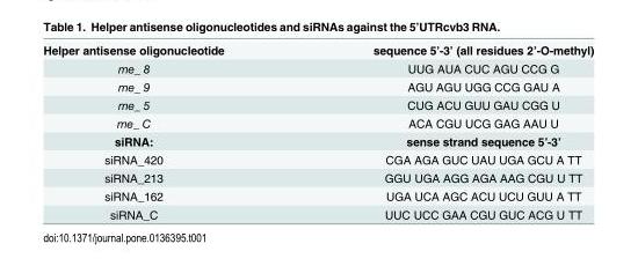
<table><tbody><tr><td>Helper antisense oligonucleotide</td><td>sequence 5’-3’ (all residues 2’-O-methyl)</td></tr><tr><td>me_ 8</td><td>UUG AUA CUC AGU CCG G</td></tr><tr><td>me_ 9</td><td>AGU AGU UGG CCG GAU A</td></tr><tr><td>me_ 5</td><td>CUG ACU GUU GAU CGG U</td></tr><tr><td>me_ C</td><td>ACA CGU UCG GAG AAU U</td></tr><tr><td>siRNA:</td><td>sense strand sequence 5’-3’</td></tr><tr><td>siRNA_420</td><td>CGA AGA GUC UAU UGA GCU A TT</td></tr><tr><td>siRNA_213</td><td>GGU UGA AGG AGA AAG CGU U TT</td></tr><tr><td>siRNA_162</td><td>UGA UCA AGC ACU UCU GUU A TT</td></tr><tr><td>siRNA_C</td><td>UUC UCC GAA CGU GUC ACG U TT</td></tr></tbody></table>